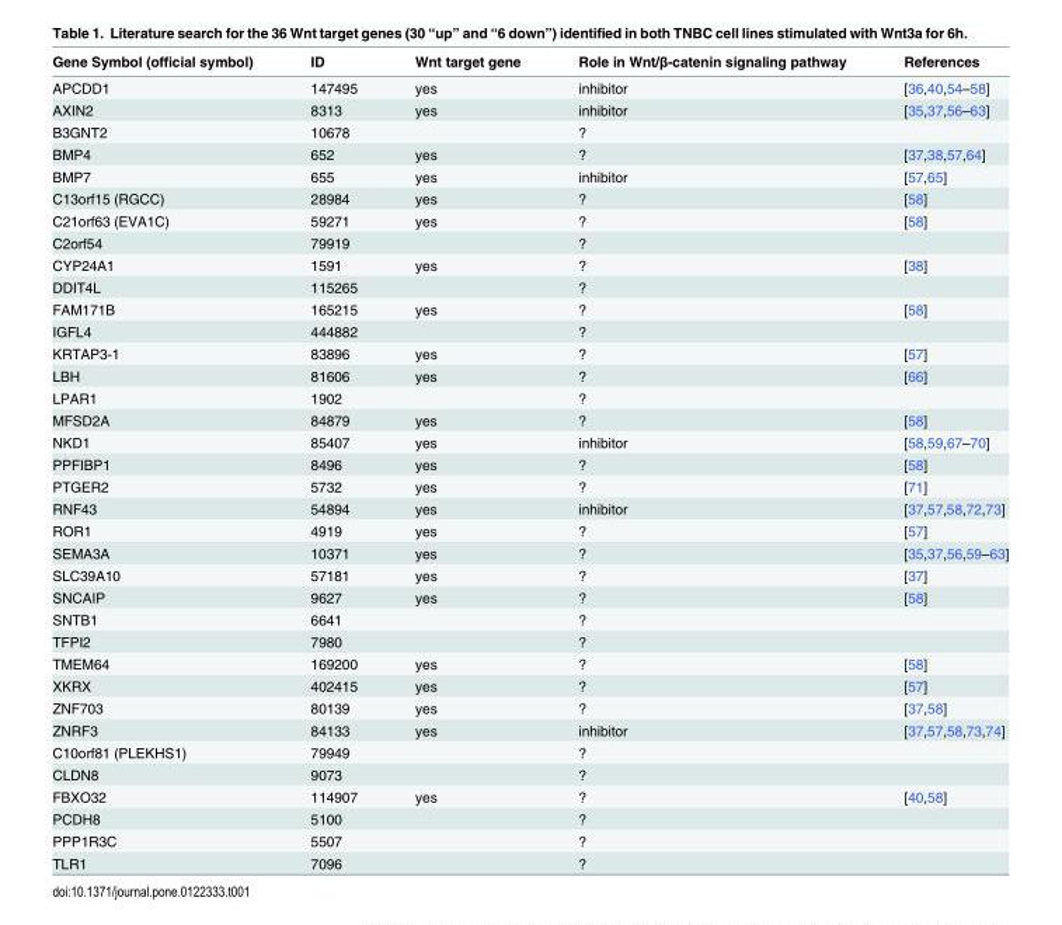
<table><thead><tr><td>Gene Symbol (official symbol)</td><td>ID</td><td>Wnt target gene</td><td>Role in Wnt/β-catenin signaling pathway</td><td>References</td></tr></thead><tbody><tr><td>APCDD1</td><td>147495</td><td>yes</td><td>inhibitor</td><td>[36,40,54–58]</td></tr><tr><td>AXIN2</td><td>8313</td><td>yes</td><td>inhibitor</td><td>[35,37,56–63]</td></tr><tr><td>B3GNT2</td><td>10678</td><td></td><td>?</td><td></td></tr><tr><td>BMP4</td><td>652</td><td>yes</td><td>?</td><td>[37,38,57,64]</td></tr><tr><td>BMP7</td><td>655</td><td>yes</td><td>inhibitor</td><td>[57,65]</td></tr><tr><td>C13orf15 (RGCC)</td><td>28984</td><td>yes</td><td>?</td><td>[58]</td></tr><tr><td>C21orf63 (EVA1C)</td><td>59271</td><td>yes</td><td>?</td><td>[58]</td></tr><tr><td>C2orf54</td><td>79919</td><td></td><td>?</td><td></td></tr><tr><td>CYP24A1</td><td>1591</td><td>yes</td><td>?</td><td>[38]</td></tr><tr><td>DDIT4L</td><td>115265</td><td></td><td>?</td><td></td></tr><tr><td>FAM171B</td><td>165215</td><td>yes</td><td>?</td><td>[58]</td></tr><tr><td>IGFL4</td><td>444882</td><td></td><td>?</td><td></td></tr><tr><td>KRTAP3-1</td><td>83896</td><td>yes</td><td>?</td><td>[57]</td></tr><tr><td>LBH</td><td>81606</td><td>yes</td><td>?</td><td>[66]</td></tr><tr><td>LPAR1</td><td>1902</td><td></td><td>?</td><td></td></tr><tr><td>MFSD2A</td><td>84879</td><td>yes</td><td>?</td><td>[58]</td></tr><tr><td>NKD1</td><td>85407</td><td>yes</td><td>inhibitor</td><td>[58,59,67–70]</td></tr><tr><td>PPFIBP1</td><td>8496</td><td>yes</td><td>?</td><td>[58]</td></tr><tr><td>PTGER2</td><td>5732</td><td>yes</td><td>?</td><td>[71]</td></tr><tr><td>RNF43</td><td>54894</td><td>yes</td><td>inhibitor</td><td>[37,57,58,72,73]</td></tr><tr><td>ROR1</td><td>4919</td><td>yes</td><td>?</td><td>[57]</td></tr><tr><td>SEMA3A</td><td>10371</td><td>yes</td><td>?</td><td>[35,37,56,59–63]</td></tr><tr><td>SLC39A10</td><td>57181</td><td>yes</td><td>?</td><td>[37]</td></tr><tr><td>SNCAIP</td><td>9627</td><td>yes</td><td>?</td><td>[58]</td></tr><tr><td>SNTB1</td><td>6641</td><td></td><td>?</td><td></td></tr><tr><td>TFPI2</td><td>7980</td><td></td><td>?</td><td></td></tr><tr><td>TMEM64</td><td>169200</td><td>yes</td><td>?</td><td>[58]</td></tr><tr><td>XKRX</td><td>402415</td><td>yes</td><td>?</td><td>[57]</td></tr><tr><td>ZNF703</td><td>80139</td><td>yes</td><td>?</td><td>[37,58]</td></tr><tr><td>ZNRF3</td><td>84133</td><td>yes</td><td>inhibitor</td><td>[37,57,58,73,74]</td></tr><tr><td>C10orf81 (PLEKHS1)</td><td>79949</td><td></td><td>?</td><td></td></tr><tr><td>CLDN8</td><td>9073</td><td></td><td>?</td><td></td></tr><tr><td>FBXO32</td><td>114907</td><td>yes</td><td>?</td><td>[40,58]</td></tr><tr><td>PCDH8</td><td>5100</td><td></td><td>?</td><td></td></tr><tr><td>PPP1R3C</td><td>5507</td><td></td><td>?</td><td></td></tr><tr><td>TLR1</td><td>7096</td><td></td><td>?</td><td></td></tr></tbody></table>